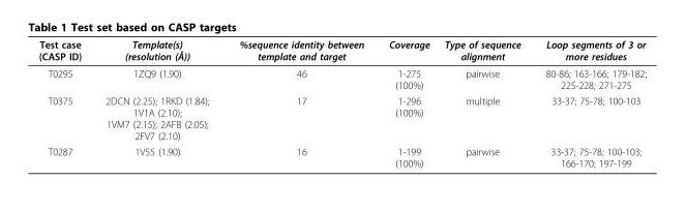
<table><thead><tr><td>Test case (CASP ID)</td><td>Template(s) (resolution (Å))</td><td>%sequence identity between template and target</td><td>Coverage</td><td>Type of sequence alignment</td><td>Loop segments of 3 or more residues</td></tr></thead><tbody><tr><td>T0295</td><td>1ZQ9 (1.90)</td><td>46</td><td>1-275 (100%)</td><td>pairwise</td><td>80-86; 163-166; 179-182; 225-228; 271-275</td></tr><tr><td>T0375</td><td>2DCN (2.25); 1RKD (1.84); 1V1A (2.10); 1VM7 (2.15); 2AFB (2.05); 2FV7 (2.10)</td><td>17</td><td>1-296 (100%)</td><td>multiple</td><td>33-37; 75-78; 100-103</td></tr><tr><td>T0287</td><td>1V55 (1.90)</td><td>16</td><td>1-199 (100%)</td><td>pairwise</td><td>33-37; 75-78; 100-103; 166-170; 197-199</td></tr></tbody></table>